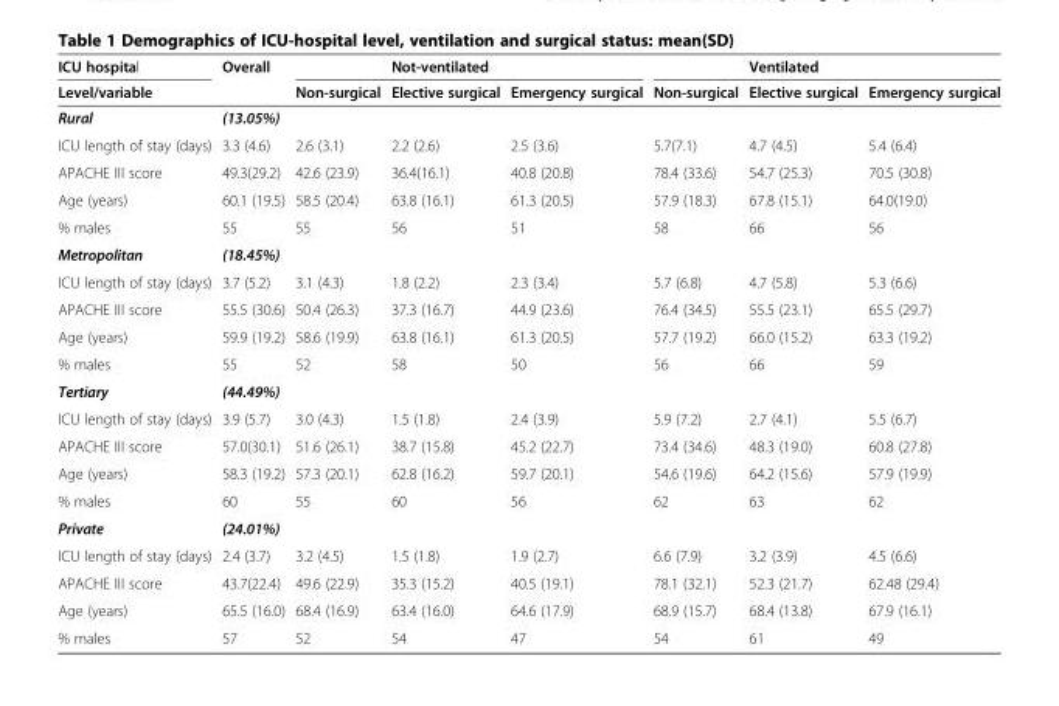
<table><thead><tr><td rowspan="2">ICU hospital Level/variable</td><td rowspan="2">Overall</td><td rowspan="2">Non-surgical</td><td rowspan="2">Not-ventilated Elective surgical</td><td rowspan="2">Emergency surgical</td><td rowspan="2">Non-surgical</td><td rowspan="2">Ventilated Elective surgical</td><td rowspan="2">Emergency surgical</td></tr><tr></tr></thead><tbody><tr><td>Rural</td><td>(13.05%)</td><td colspan="6"></td></tr><tr><td>ICU length of stay (days)</td><td>3.3 (4.6)</td><td>2.6 (3.1)</td><td>2.2 (2.6)</td><td>2.5 (3.6)</td><td>5.7(7.1)</td><td>4.7 (4.5)</td><td>5.4 (6.4)</td></tr><tr><td>APACHE III score</td><td>49.3(29.2)</td><td>42.6 (23.9)</td><td>36.4(16.1)</td><td>40.8 (20.8)</td><td>78.4 (33.6)</td><td>54.7 (25.3)</td><td>70.5 (30.8)</td></tr><tr><td>Age (years)</td><td>60.1 (19.5)</td><td>58.5 (20.4)</td><td>63.8 (16.1)</td><td>61.3 (20.5)</td><td>57.9 (18.3)</td><td>67.8 (15.1)</td><td>64.0(19.0)</td></tr><tr><td>% males</td><td>55</td><td>55</td><td>56</td><td>51</td><td>58</td><td>66</td><td>56</td></tr><tr><td>Metropolitan</td><td>(18.45%)</td><td colspan="6"></td></tr><tr><td>ICU length of stay (days)</td><td>3.7 (5.2)</td><td>3.1 (4.3)</td><td>1.8 (2.2)</td><td>2.3 (3.4)</td><td>5.7 (6.8)</td><td>4.7 (5.8)</td><td>5.3 (6.6)</td></tr><tr><td>APACHE III score</td><td>55.5 (30.6)</td><td>50.4 (26.3)</td><td>37.3 (16.7)</td><td>44.9 (23.6)</td><td>76.4 (34.5)</td><td>55.5 (23.1)</td><td>65.5 (29.7)</td></tr><tr><td>Age (years)</td><td>59.9 (19.2)</td><td>58.6 (19.9)</td><td>63.8 (16.1)</td><td>61.3 (20.5)</td><td>57.7 (19.2)</td><td>66.0 (15.2)</td><td>63.3 (19.2)</td></tr><tr><td>% males</td><td>55</td><td>52</td><td>58</td><td>50</td><td>56</td><td>66</td><td>59</td></tr><tr><td>Tertiary</td><td>(44.49%)</td><td colspan="6"></td></tr><tr><td>ICU length of stay (days)</td><td>3.9 (5.7)</td><td>3.0 (4.3)</td><td>1.5 (1.8)</td><td>2.4 (3.9)</td><td>5.9 (7.2)</td><td>2.7 (4.1)</td><td>5.5 (6.7)</td></tr><tr><td>APACHE III score</td><td>57.0(30.1)</td><td>51.6 (26.1)</td><td>38.7 (15.8)</td><td>45.2 (22.7)</td><td>73.4 (34.6)</td><td>48.3 (19.0)</td><td>60.8 (27.8)</td></tr><tr><td>Age (years)</td><td>58.3 (19.2)</td><td>57.3 (20.1)</td><td>62.8 (16.2)</td><td>59.7 (20.1)</td><td>54.6 (19.6)</td><td>64.2 (15.6)</td><td>57.9 (19.9)</td></tr><tr><td>% males</td><td>60</td><td>55</td><td>60</td><td>56</td><td>62</td><td>63</td><td>62</td></tr><tr><td>Private</td><td>(24.01%)</td><td colspan="6"></td></tr><tr><td>ICU length of stay (days)</td><td>2.4 (3.7)</td><td>3.2 (4.5)</td><td>1.5 (1.8)</td><td>1.9 (2.7)</td><td>6.6 (7.9)</td><td>3.2 (3.9)</td><td>4.5 (6.6)</td></tr><tr><td>APACHE III score</td><td>43.7(22.4)</td><td>49.6 (22.9)</td><td>35.3 (15.2)</td><td>40.5 (19.1)</td><td>78.1 (32.1)</td><td>52.3 (21.7)</td><td>62.48 (29.4)</td></tr><tr><td>Age (years)</td><td>65.5 (16.0)</td><td>68.4 (16.9)</td><td>63.4 (16.0)</td><td>64.6 (17.9)</td><td>68.9 (15.7)</td><td>68.4 (13.8)</td><td>67.9 (16.1)</td></tr><tr><td>% males</td><td>57</td><td>52</td><td>54</td><td>47</td><td>54</td><td>61</td><td>49</td></tr></tbody></table>